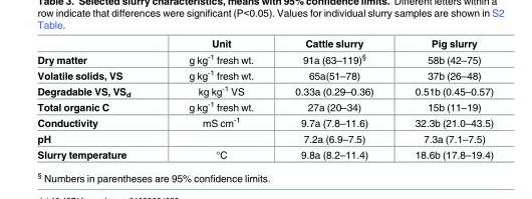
<table><thead><tr><td></td><td>Unit</td><td>Cattle slurry</td><td>Pig slurry</td></tr></thead><tbody><tr><td>Dry matter</td><td>g kg<sup>-1</sup> fresh wt.</td><td>91a (63–119)<sup>§</sup></td><td>58b (42–75)</td></tr><tr><td>Volatile solids, VS</td><td>g kg<sup>-1</sup> fresh wt.</td><td>65a(51–78)</td><td>37b (26–48)</td></tr><tr><td>Degradable VS, VS<sub>d</sub></td><td>kg kg<sup>-1</sup> VS</td><td>0.33a (0.29–0.36)</td><td>0.51b (0.45–0.57)</td></tr><tr><td>Total organic C</td><td>g kg<sup>-1</sup> fresh wt.</td><td>27a (20–34)</td><td>15b (11–19)</td></tr><tr><td>Conductivity</td><td>mS cm<sup>-1</sup></td><td>9.7a (7.8–11.6)</td><td>32.3b (21.0–43.5)</td></tr><tr><td>pH</td><td></td><td>7.2a (6.9–7.5)</td><td>7.3a (7.1–7.5)</td></tr><tr><td>Slurry temperature</td><td>°C</td><td>9.8a (8.2–11.4)</td><td>18.6b (17.8–19.4)</td></tr></tbody></table>